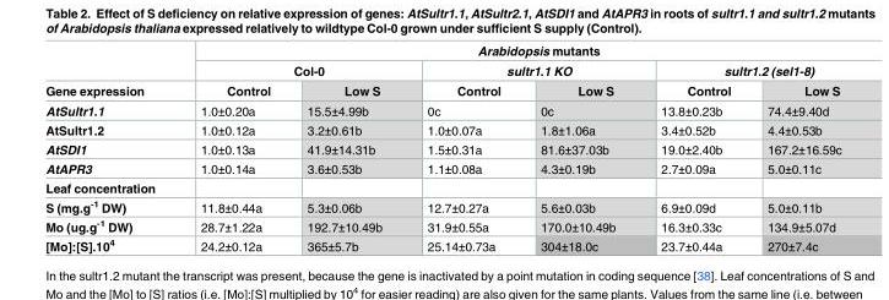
<table><thead><tr><td rowspan="3">Gene expression</td><td colspan="6">Arabidopsis mutants</td></tr><tr><td colspan="2">Col-0</td><td colspan="2">sultr1.1 KO</td><td colspan="2">sultr1.2 (sel1-8)</td></tr><tr><td>Control</td><td>Low S</td><td>Control</td><td>Low S</td><td>Control</td><td>Low S</td></tr></thead><tbody><tr><td>AtSultr1.1</td><td>1.0±0.20a</td><td>15.5±4.99b</td><td>0c</td><td>0c</td><td>13.8±0.23b</td><td>74.4±9.40d</td></tr><tr><td>AtSultr1.2</td><td>1.0±0.12a</td><td>3.2±0.61b</td><td>1.0±0.07a</td><td>1.8±1.06a</td><td>3.4±0.52b</td><td>4.4±0.53b</td></tr><tr><td>AtSDI1</td><td>1.0±0.13a</td><td>41.9±14.31b</td><td>1.5±0.31a</td><td>81.6±37.03b</td><td>19.0±2.40b</td><td>167.2±16.59c</td></tr><tr><td>AtAPR3</td><td>1.0±0.14a</td><td>3.6±0.53b</td><td>1.1±0.08a</td><td>4.3±0.19b</td><td>2.7±0.09a</td><td>5.0±0.11c</td></tr><tr><td colspan="7">Leaf concentration</td></tr><tr><td>S (mg.g<sup>-1</sup> DW)</td><td>11.8±0.44a</td><td>5.3±0.06b</td><td>12.7±0.27a</td><td>5.6±0.03b</td><td>6.9±0.09d</td><td>5.0±0.11b</td></tr><tr><td>Mo (ug.g<sup>-1</sup> DW)</td><td>28.7±1.22a</td><td>192.7±10.49b</td><td>31.9±0.55a</td><td>170.0±10.49b</td><td>16.3±0.33c</td><td>134.9±5.07d</td></tr><tr><td>[Mo]:[S].10<sup>4</sup></td><td>24.2±0.12a</td><td>365±5.7b</td><td>25.14±0.73a</td><td>304±18.0c</td><td>23.7±0.44a</td><td>270±7.4c</td></tr></tbody></table>